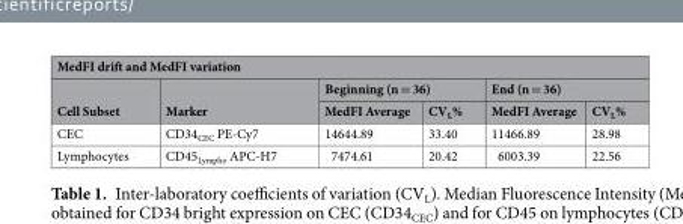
<table><thead><tr><td colspan="6">MedFI drift and MedFI variation</td></tr><tr><td rowspan="2">Cell Subset</td><td rowspan="2">Marker</td><td colspan="2">Beginning (n = 36)</td><td colspan="2">End (n = 36)</td></tr><tr><td>MedFI Average</td><td>CV<sub>L</sub>%</td><td>MedFI Average</td><td>CV<sub>L</sub>%</td></tr></thead><tbody><tr><td>CEC</td><td>CD34<sub>CEC</sub> PE-Cy7</td><td>14644.89</td><td>33.40</td><td>11466.89</td><td>28.98</td></tr><tr><td>Lymphocytes</td><td>CD45<sub>Lympho</sub> APC-H7</td><td>7474.61</td><td>20.42</td><td>6003.39</td><td>22.56</td></tr></tbody></table>